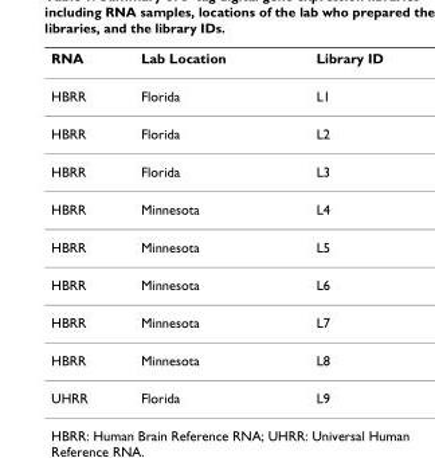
<table><thead><tr><td>RNA</td><td>Lab Location</td><td>Library ID</td></tr></thead><tbody><tr><td>HBRR</td><td>Florida</td><td>L1</td></tr><tr><td>HBRR</td><td>Florida</td><td>L2</td></tr><tr><td>HBRR</td><td>Florida</td><td>L3</td></tr><tr><td>HBRR</td><td>Minnesota</td><td>L4</td></tr><tr><td>HBRR</td><td>Minnesota</td><td>L5</td></tr><tr><td>HBRR</td><td>Minnesota</td><td>L6</td></tr><tr><td>HBRR</td><td>Minnesota</td><td>L7</td></tr><tr><td>HBRR</td><td>Minnesota</td><td>L8</td></tr><tr><td>UHRR</td><td>Florida</td><td>L9</td></tr></tbody></table>